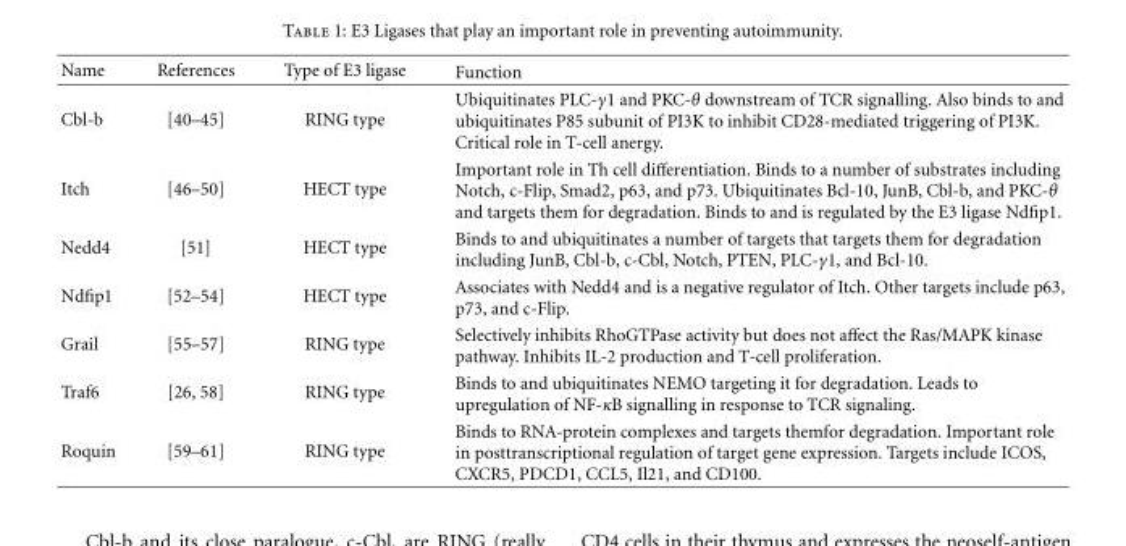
<table><thead><tr><td>Name</td><td>References</td><td>Type of E3 ligase</td><td>Function</td></tr></thead><tbody><tr><td>Cbl-b</td><td>[40–45]</td><td>RING type</td><td>Ubiquitinates PLC-γ1 and PKC-θ downstream of TCR signalling. Also binds to and ubiquitinates P85 subunit of PI3K to inhibit CD28-mediated triggering of PI3K. Critical role in T-cell anergy.</td></tr><tr><td>Itch</td><td>[46–50]</td><td>HECT type</td><td>Important role in Th cell differentiation. Binds to a number of substrates including Notch, c-Flip, Smad2, p63, and p73. Ubiquitinates Bcl-10, JunB, Cbl-b, and PKC-θ and targets them for degradation. Binds to and is regulated by the E3 ligase Ndfip1.</td></tr><tr><td>Nedd4</td><td>[51]</td><td>HECT type</td><td>Binds to and ubiquitinates a number of targets that targets them for degradation including JunB, Cbl-b, c-Cbl, Notch, PTEN, PLC-γ1, and Bcl-10.</td></tr><tr><td>Ndfip1</td><td>[52–54]</td><td>HECT type</td><td>Associates with Nedd4 and is a negative regulator of Itch. Other targets include p63, p73, and c-Flip.</td></tr><tr><td>Grail</td><td>[55–57]</td><td>RING type</td><td>Selectively inhibits RhoGTPase activity but does not affect the Ras/MAPK kinase pathway. Inhibits IL-2 production and T-cell proliferation.</td></tr><tr><td>Traf6</td><td>[26, 58]</td><td>RING type</td><td>Binds to and ubiquitinates NEMO targeting it for degradation. Leads to upregulation of NF-κB signalling in response to TCR signaling.</td></tr><tr><td>Roquin</td><td>[59–61]</td><td>RING type</td><td>Binds to RNA-protein complexes and targets themfor degradation. Important role in posttranscriptional regulation of target gene expression. Targets include ICOS, CXCR5, PDCD1, CCL5, Il21, and CD100.</td></tr></tbody></table>